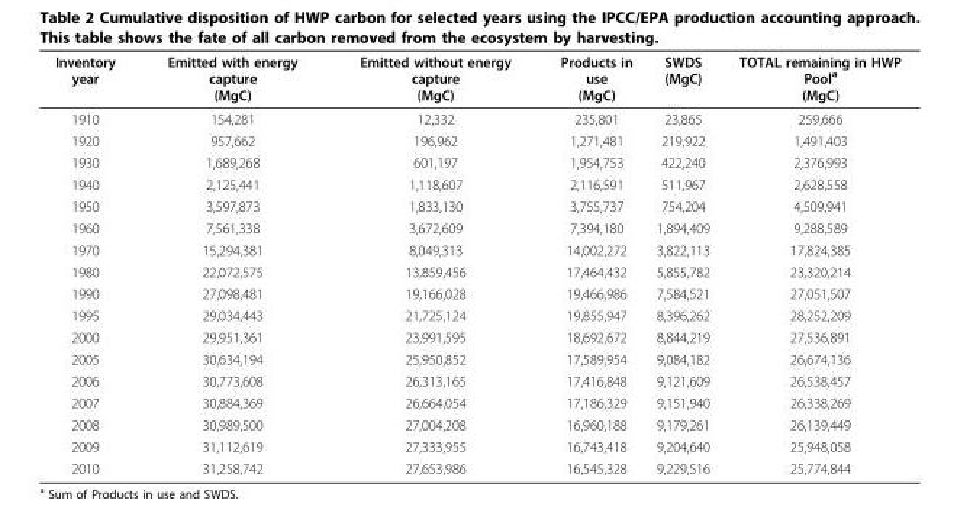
<table><thead><tr><td>Inventory year</td><td>Emitted with energy capture (MgC)</td><td>Emitted without energy capture (MgC)</td><td>Products in use (MgC)</td><td>SWDS (MgC)</td><td>TOTAL remaining in HWP Pool<sup>a</sup> (MgC)</td></tr></thead><tbody><tr><td>1910</td><td>154,281</td><td>12,332</td><td>235,801</td><td>23,865</td><td>259,666</td></tr><tr><td>1920</td><td>957,662</td><td>196,962</td><td>1,271,481</td><td>219,922</td><td>1,491,403</td></tr><tr><td>1930</td><td>1,689,268</td><td>601,197</td><td>1,954,753</td><td>422,240</td><td>2,376,993</td></tr><tr><td>1940</td><td>2,125,441</td><td>1,118,607</td><td>2,116,591</td><td>511,967</td><td>2,628,558</td></tr><tr><td>1950</td><td>3,597,873</td><td>1,833,130</td><td>3,755,737</td><td>754,204</td><td>4,509,941</td></tr><tr><td>1960</td><td>7,561,338</td><td>3,672,609</td><td>7,394,180</td><td>1,894,409</td><td>9,288,589</td></tr><tr><td>1970</td><td>15,294,381</td><td>8,049,313</td><td>14,002,272</td><td>3,822,113</td><td>17,824,385</td></tr><tr><td>1980</td><td>22,072,575</td><td>13,859,456</td><td>17,464,432</td><td>5,855,782</td><td>23,320,214</td></tr><tr><td>1990</td><td>27,098,481</td><td>19,166,028</td><td>19,466,986</td><td>7,584,521</td><td>27,051,507</td></tr><tr><td>1995</td><td>29,034,443</td><td>21,725,124</td><td>19,855,947</td><td>8,396,262</td><td>28,252,209</td></tr><tr><td>2000</td><td>29,951,361</td><td>23,991,595</td><td>18,692,672</td><td>8,844,219</td><td>27,536,891</td></tr><tr><td>2005</td><td>30,634,194</td><td>25,950,852</td><td>17,589,954</td><td>9,084,182</td><td>26,674,136</td></tr><tr><td>2006</td><td>30,773,608</td><td>26,313,165</td><td>17,416,848</td><td>9,121,609</td><td>26,538,457</td></tr><tr><td>2007</td><td>30,884,369</td><td>26,664,054</td><td>17,186,329</td><td>9,151,940</td><td>26,338,269</td></tr><tr><td>2008</td><td>30,989,500</td><td>27,004,208</td><td>16,960,188</td><td>9,179,261</td><td>26,139,449</td></tr><tr><td>2009</td><td>31,112,619</td><td>27,333,955</td><td>16,743,418</td><td>9,204,640</td><td>25,948,058</td></tr><tr><td>2010</td><td>31,258,742</td><td>27,653,986</td><td>16,545,328</td><td>9,229,516</td><td>25,774,844</td></tr></tbody></table>